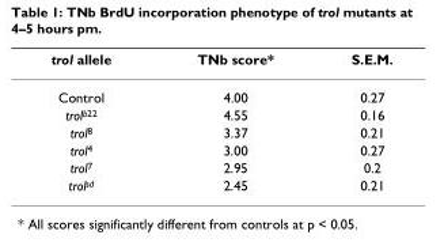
<table><thead><tr><td>trol allele</td><td>TNb score*</td><td>S.E.M.</td></tr></thead><tbody><tr><td>Control</td><td>4.00</td><td>0.27</td></tr><tr><td>trol<sup>b22</sup></td><td>4.55</td><td>0.16</td></tr><tr><td>trol<sup>8</sup></td><td>3.37</td><td>0.21</td></tr><tr><td>trol<sup>4</sup></td><td>3.00</td><td>0.27</td></tr><tr><td>trol<sup>7</sup></td><td>2.95</td><td>0.2</td></tr><tr><td>trol<sup>sd</sup></td><td>2.45</td><td>0.21</td></tr></tbody></table>